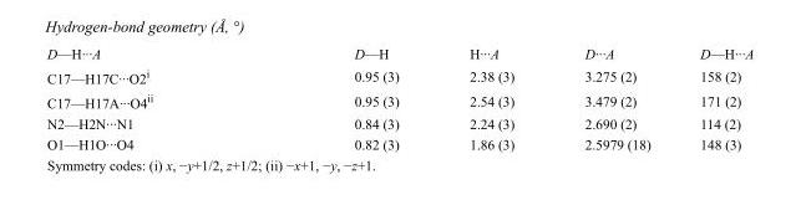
<table><tbody><tr><td>D—H···A</td><td>D—H</td><td>H···A</td><td>D···A</td><td>D—H···A</td></tr><tr><td>C17—H17C···O2<sup>i</sup></td><td>0.95 (3)</td><td>2.38 (3)</td><td>3.275 (2)</td><td>158 (2)</td></tr><tr><td>C17—H17A···O4<sup>ii</sup></td><td>0.95 (3)</td><td>2.54 (3)</td><td>3.479 (2)</td><td>171 (2)</td></tr><tr><td>N2—H2N···N1</td><td>0.84 (3)</td><td>2.24 (3)</td><td>2.690 (2)</td><td>114 (2)</td></tr><tr><td>O1—H1O···O4</td><td>0.82 (3)</td><td>1.86 (3)</td><td>2.5979 (18)</td><td>148 (3)</td></tr></tbody></table>